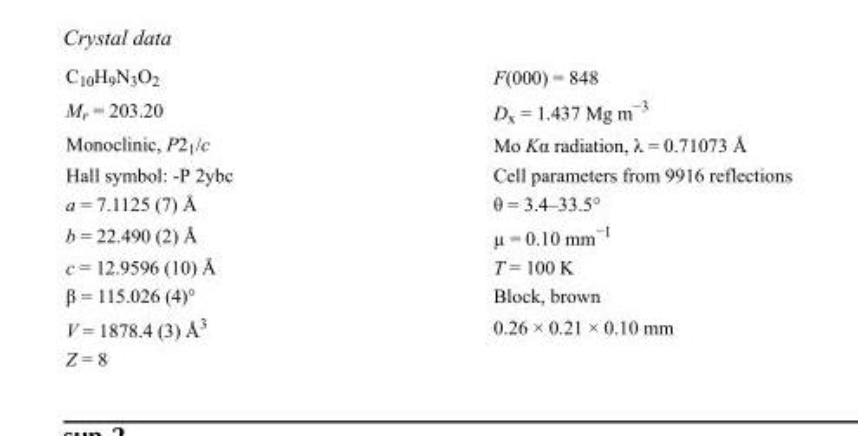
<table><tbody><tr><td>C<sub>10</sub>H<sub>9</sub>N<sub>3</sub>O<sub>2</sub></td><td>F(000) = 848</td></tr><tr><td>M<sub>r</sub> = 203.20</td><td>D<sub>x</sub> = 1.437 Mg m<sup>−3</sup></td></tr><tr><td>Monoclinic, P2<sub>1</sub>/c</td><td>Mo Kα radiation, λ = 0.71073 Å</td></tr><tr><td>Hall symbol: -P 2ybc</td><td>Cell parameters from 9916 reflections</td></tr><tr><td>a = 7.1125 (7) Å</td><td>θ = 3.4–33.5°</td></tr><tr><td>b = 22.490 (2) Å</td><td>µ = 0.10 mm<sup>−1</sup></td></tr><tr><td>c = 12.9596 (10) Å</td><td>T = 100 K</td></tr><tr><td>β = 115.026 (4)°</td><td>Block, brown</td></tr><tr><td>V = 1878.4 (3) Å<sup>3</sup></td><td>0.26 × 0.21 × 0.10 mm</td></tr><tr><td>Z = 8</td><td></td></tr></tbody></table>